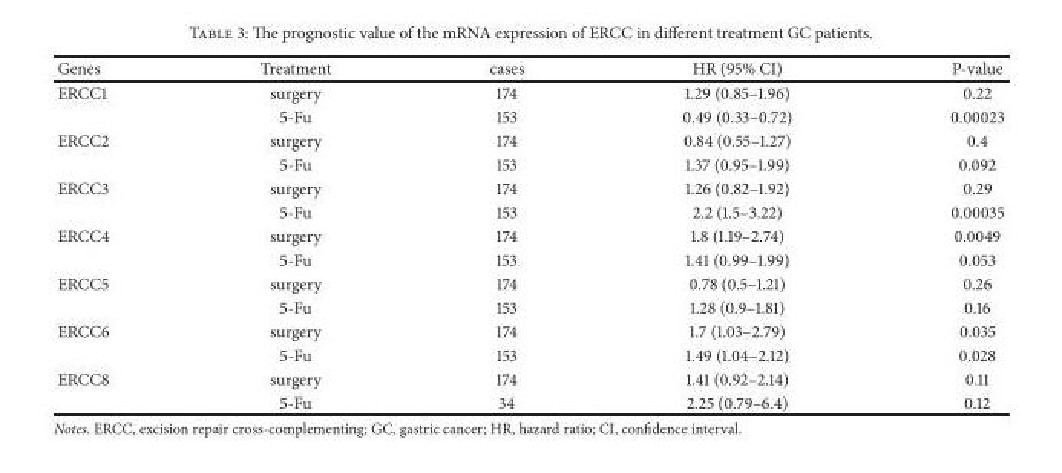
<table><thead><tr><td>Genes</td><td>Treatment</td><td>cases</td><td>HR (95% CI)</td><td>P-value</td></tr></thead><tbody><tr><td rowspan="2">ERCC1</td><td>surgery</td><td>174</td><td>1.29 (0.85–1.96)</td><td>0.22</td></tr><tr><td>5-Fu</td><td>153</td><td>0.49 (0.33–0.72)</td><td>0.00023</td></tr><tr><td rowspan="2">ERCC2</td><td>surgery</td><td>174</td><td>0.84 (0.55–1.27)</td><td>0.4</td></tr><tr><td>5-Fu</td><td>153</td><td>1.37 (0.95–1.99)</td><td>0.092</td></tr><tr><td rowspan="2">ERCC3</td><td>surgery</td><td>174</td><td>1.26 (0.82–1.92)</td><td>0.29</td></tr><tr><td>5-Fu</td><td>153</td><td>2.2 (1.5–3.22)</td><td>0.00035</td></tr><tr><td rowspan="2">ERCC4</td><td>surgery</td><td>174</td><td>1.8 (1.19–2.74)</td><td>0.0049</td></tr><tr><td>5-Fu</td><td>153</td><td>1.41 (0.99–1.99)</td><td>0.053</td></tr><tr><td rowspan="2">ERCC5</td><td>surgery</td><td>174</td><td>0.78 (0.5–1.21)</td><td>0.26</td></tr><tr><td>5-Fu</td><td>153</td><td>1.28 (0.9–1.81)</td><td>0.16</td></tr><tr><td rowspan="2">ERCC6</td><td>surgery</td><td>174</td><td>1.7 (1.03–2.79)</td><td>0.035</td></tr><tr><td>5-Fu</td><td>153</td><td>1.49 (1.04–2.12)</td><td>0.028</td></tr><tr><td rowspan="2">ERCC8</td><td>surgery</td><td>174</td><td>1.41 (0.92–2.14)</td><td>0.11</td></tr><tr><td>5-Fu</td><td>34</td><td>2.25 (0.79–6.4)</td><td>0.12</td></tr></tbody></table>